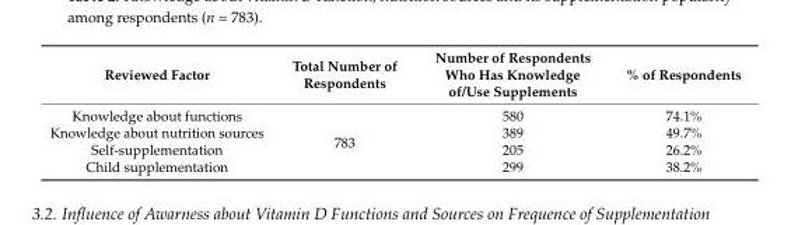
<table><thead><tr><td>Reviewed Factor</td><td>Total Number of Respondents</td><td>Number of Respondents Who Has Knowledge of/Use Supplements</td><td>% of Respondents</td></tr></thead><tbody><tr><td>Knowledge about functions</td><td rowspan="4">783</td><td>580</td><td>74.1%</td></tr><tr><td>Knowledge about nutrition sources</td><td>389</td><td>49.7%</td></tr><tr><td>Self-supplementation</td><td>205</td><td>26.2%</td></tr><tr><td>Child supplementation</td><td>299</td><td>38.2%</td></tr></tbody></table>